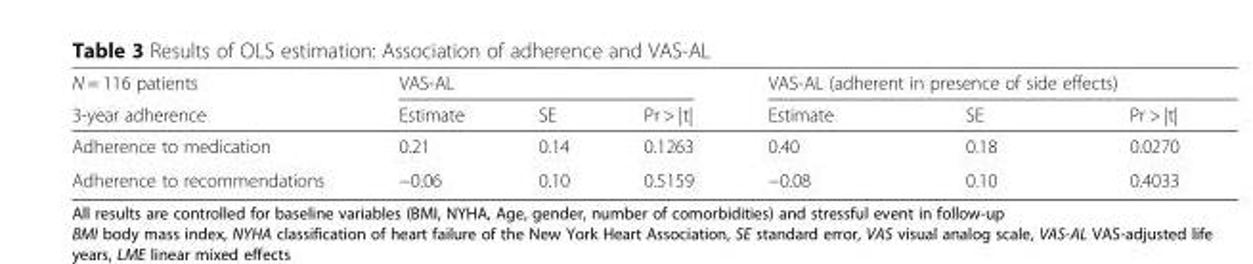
<table><thead><tr><td rowspan="2">N = 116 patients 3-year adherence</td><td colspan="3">VAS-AL</td><td colspan="3">VAS-AL (adherent in presence of side effects)</td></tr><tr><td>Estimate</td><td>SE</td><td>Pr &gt; |t|</td><td>Estimate</td><td>SE</td><td>Pr &gt; |t|</td></tr></thead><tbody><tr><td>Adherence to medication</td><td>0.21</td><td>0.14</td><td>0.1263</td><td>0.40</td><td>0.18</td><td>0.0270</td></tr><tr><td>Adherence to recommendations</td><td>−0.06</td><td>0.10</td><td>0.5159</td><td>−0.08</td><td>0.10</td><td>0.4033</td></tr></tbody></table>